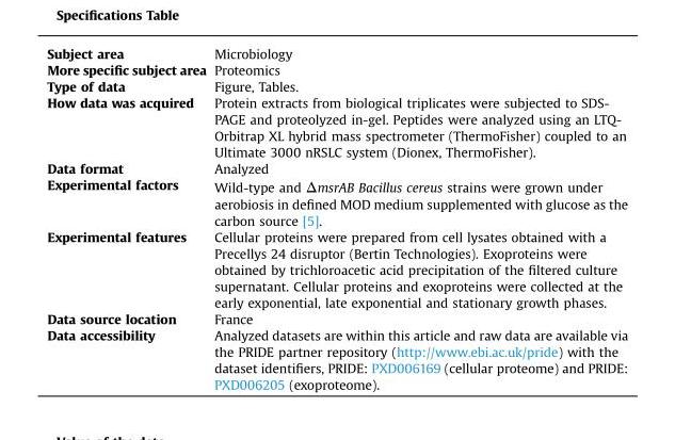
<table><tbody><tr><td>Subject area</td><td>Microbiology</td></tr><tr><td>More specific subject area</td><td>Proteomics</td></tr><tr><td>Type of data</td><td>Figure, Tables.</td></tr><tr><td>How data was acquired</td><td>Protein extracts from biological triplicates were subjected to SDS- PAGE and proteolyzed in-gel. Peptides were analyzed using an LTQ- Orbitrap XL hybrid mass spectrometer (ThermoFisher) coupled to an Ultimate 3000 nRSLC system (Dionex, ThermoFisher).</td></tr><tr><td>Data format</td><td>Analyzed</td></tr><tr><td>Experimental factors</td><td>Wild-type and ΔmsrAB Bacillus cereus strains were grown under aerobiosis in defined MOD medium supplemented with glucose as the carbon source [5].</td></tr><tr><td>Experimental features</td><td>Cellular proteins were prepared from cell lysates obtained with a Precellys 24 disruptor (Bertin Technologies). Exoproteins were obtained by trichloroacetic acid precipitation of the filtered culture supernatant. Cellular proteins and exoproteins were collected at the early exponential, late exponential and stationary growth phases.</td></tr><tr><td>Data source location</td><td>France</td></tr><tr><td>Data accessibility</td><td>Analyzed datasets are within this article and raw data are available via the PRIDE partner repository (http://www.ebi.ac.uk/pride) with the dataset identifiers, PRIDE: PXD006169 (cellular proteome) and PRIDE: PXD006205 (exoproteome).</td></tr></tbody></table>